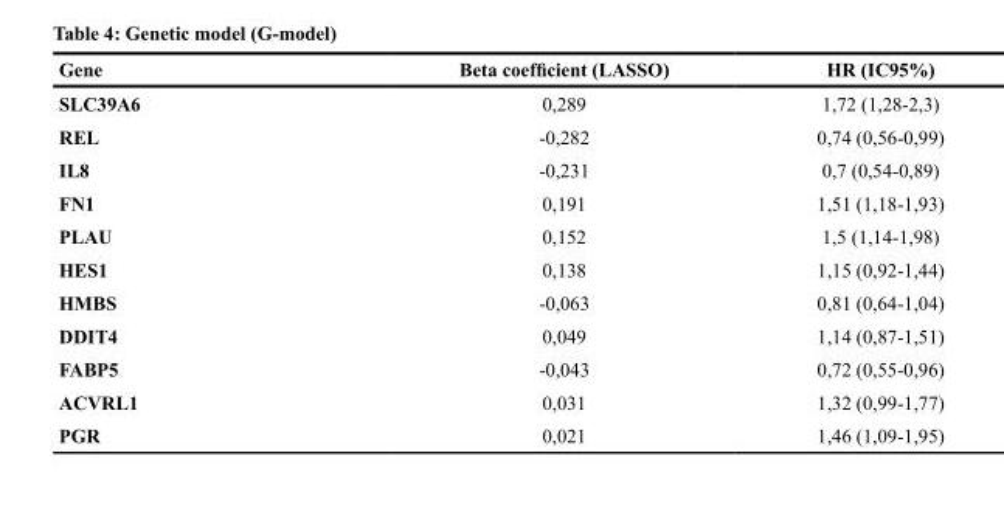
<table><thead><tr><td>Gene</td><td>Beta coefficient (LASSO)</td><td>HR (IC95%)</td></tr></thead><tbody><tr><td>SLC39A6</td><td>0,289</td><td>1,72 (1,28-2,3)</td></tr><tr><td>REL</td><td>-0,282</td><td>0,74 (0,56-0,99)</td></tr><tr><td>IL8</td><td>-0,231</td><td>0,7 (0,54-0,89)</td></tr><tr><td>FN1</td><td>0,191</td><td>1,51 (1,18-1,93)</td></tr><tr><td>PLAU</td><td>0,152</td><td>1,5 (1,14-1,98)</td></tr><tr><td>HES1</td><td>0,138</td><td>1,15 (0,92-1,44)</td></tr><tr><td>HMBS</td><td>-0,063</td><td>0,81 (0,64-1,04)</td></tr><tr><td>DDIT4</td><td>0,049</td><td>1,14 (0,87-1,51)</td></tr><tr><td>FABP5</td><td>-0,043</td><td>0,72 (0,55-0,96)</td></tr><tr><td>ACVRL1</td><td>0,031</td><td>1,32 (0,99-1,77)</td></tr><tr><td>PGR</td><td>0,021</td><td>1,46 (1,09-1,95)</td></tr></tbody></table>